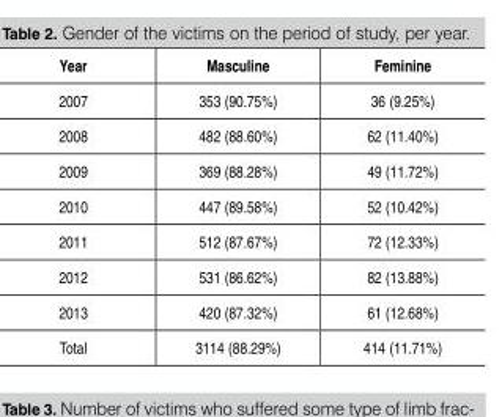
<table><thead><tr><td>Year</td><td>Masculine</td><td>Feminine</td></tr></thead><tbody><tr><td>2007</td><td>353 (90.75%)</td><td>36 (9.25%)</td></tr><tr><td>2008</td><td>482 (88.60%)</td><td>62 (11.40%)</td></tr><tr><td>2009</td><td>369 (88.28%)</td><td>49 (11.72%)</td></tr><tr><td>2010</td><td>447 (89.58%)</td><td>52 (10.42%)</td></tr><tr><td>2011</td><td>512 (87.67%)</td><td>72 (12.33%)</td></tr><tr><td>2012</td><td>531 (86.62%)</td><td>82 (13.88%)</td></tr><tr><td>2013</td><td>420 (87.32%)</td><td>61 (12.68%)</td></tr><tr><td>Total</td><td>3114 (88.29%)</td><td>414 (11.71%)</td></tr></tbody></table>